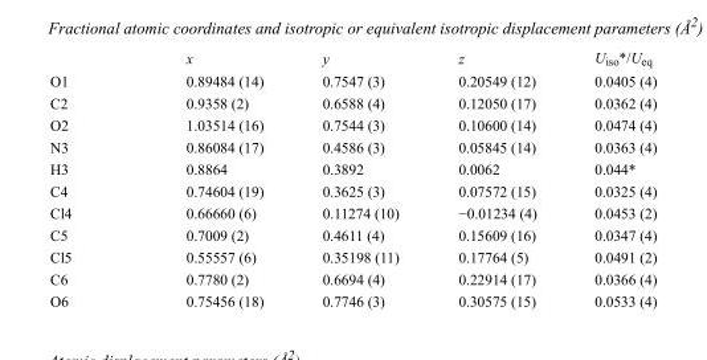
<table><thead><tr><td></td><td>x</td><td>y</td><td>z</td><td>U<sub>iso</sub>*/U<sub>eq</sub></td></tr></thead><tbody><tr><td>O1</td><td>0.89484 (14)</td><td>0.7547 (3)</td><td>0.20549 (12)</td><td>0.0405 (4)</td></tr><tr><td>C2</td><td>0.9358 (2)</td><td>0.6588 (4)</td><td>0.12050 (17)</td><td>0.0362 (4)</td></tr><tr><td>O2</td><td>1.03514 (16)</td><td>0.7544 (3)</td><td>0.10600 (14)</td><td>0.0474 (4)</td></tr><tr><td>N3</td><td>0.86084 (17)</td><td>0.4586 (3)</td><td>0.05845 (14)</td><td>0.0363 (4)</td></tr><tr><td>H3</td><td>0.8864</td><td>0.3892</td><td>0.0062</td><td>0.044*</td></tr><tr><td>C4</td><td>0.74604 (19)</td><td>0.3625 (3)</td><td>0.07572 (15)</td><td>0.0325 (4)</td></tr><tr><td>Cl4</td><td>0.66660 (6)</td><td>0.11274 (10)</td><td>−0.01234 (4)</td><td>0.0453 (2)</td></tr><tr><td>C5</td><td>0.7009 (2)</td><td>0.4611 (4)</td><td>0.15609 (16)</td><td>0.0347 (4)</td></tr><tr><td>Cl5</td><td>0.55557 (6)</td><td>0.35198 (11)</td><td>0.17764 (5)</td><td>0.0491 (2)</td></tr><tr><td>C6</td><td>0.7780 (2)</td><td>0.6694 (4)</td><td>0.22914 (17)</td><td>0.0366 (4)</td></tr><tr><td>O6</td><td>0.75456 (18)</td><td>0.7746 (3)</td><td>0.30575 (15)</td><td>0.0533 (4)</td></tr></tbody></table>